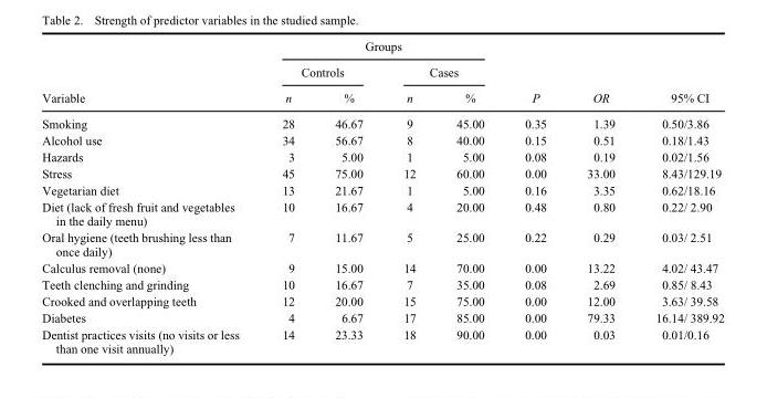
<table><thead><tr><td rowspan="3">Variable</td><td colspan="4">Groups</td><td rowspan="3">P</td><td rowspan="3">OR</td><td rowspan="3">95% CI</td></tr><tr><td colspan="2">Controls</td><td colspan="2">Cases</td></tr><tr><td>n</td><td>%</td><td>n</td><td>%</td></tr></thead><tbody><tr><td>Smoking</td><td>28</td><td>46.67</td><td>9</td><td>45.00</td><td>0.35</td><td>1.39</td><td>0.50/3.86</td></tr><tr><td>Alcohol use</td><td>34</td><td>56.67</td><td>8</td><td>40.00</td><td>0.15</td><td>0.51</td><td>0.18/1.43</td></tr><tr><td>Hazards</td><td>3</td><td>5.00</td><td>1</td><td>5.00</td><td>0.08</td><td>0.19</td><td>0.02/1.56</td></tr><tr><td>Stress</td><td>45</td><td>75.00</td><td>12</td><td>60.00</td><td>0.00</td><td>33.00</td><td>8.43/129.19</td></tr><tr><td>Vegetarian diet</td><td>13</td><td>21.67</td><td>1</td><td>5.00</td><td>0.16</td><td>3.35</td><td>0.62/18.16</td></tr><tr><td>Diet (lack of fresh fruit and vegetables in the daily menu)</td><td>10</td><td>16.67</td><td>4</td><td>20.00</td><td>0.48</td><td>0.80</td><td>0.22/ 2.90</td></tr><tr><td>Oral hygiene (teeth brushing less than once daily)</td><td>7</td><td>11.67</td><td>5</td><td>25.00</td><td>0.22</td><td>0.29</td><td>0.03/ 2.51</td></tr><tr><td>Calculus removal (none)</td><td>9</td><td>15.00</td><td>14</td><td>70.00</td><td>0.00</td><td>13.22</td><td>4.02/ 43.47</td></tr><tr><td>Teeth clenching and grinding</td><td>10</td><td>16.67</td><td>7</td><td>35.00</td><td>0.08</td><td>2.69</td><td>0.85/ 8.43</td></tr><tr><td>Crooked and overlapping teeth</td><td>12</td><td>20.00</td><td>15</td><td>75.00</td><td>0.00</td><td>12.00</td><td>3.63/ 39.58</td></tr><tr><td>Diabetes</td><td>4</td><td>6.67</td><td>17</td><td>85.00</td><td>0.00</td><td>79.33</td><td>16.14/ 389.92</td></tr><tr><td>Dentist practices visits (no visits or less than one visit annually)</td><td>14</td><td>23.33</td><td>18</td><td>90.00</td><td>0.00</td><td>0.03</td><td>0.01/0.16</td></tr></tbody></table>